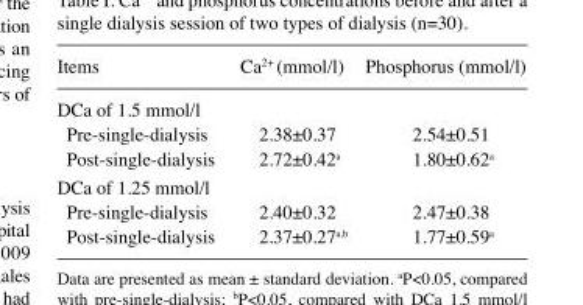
<table><thead><tr><td>Items</td><td>Ca<sup>2+</sup> (mmol/l)</td><td>Phosphorus (mmol/l)</td></tr></thead><tbody><tr><td colspan="3">DCa of 1.5 mmol/l</td></tr><tr><td>Pre-single-dialysis</td><td>2.38±0.37</td><td>2.54±0.51</td></tr><tr><td>Post-single-dialysis</td><td>2.72±0.42<sup>a</sup></td><td>1.80±0.62<sup>a</sup></td></tr><tr><td colspan="3">DCa of 1.25 mmol/l</td></tr><tr><td>Pre-single-dialysis</td><td>2.40±0.32</td><td>2.47±0.38</td></tr><tr><td>Post-single-dialysis</td><td>2.37±0.27<sup>a,b</sup></td><td>1.77±0.59<sup>a</sup></td></tr></tbody></table>